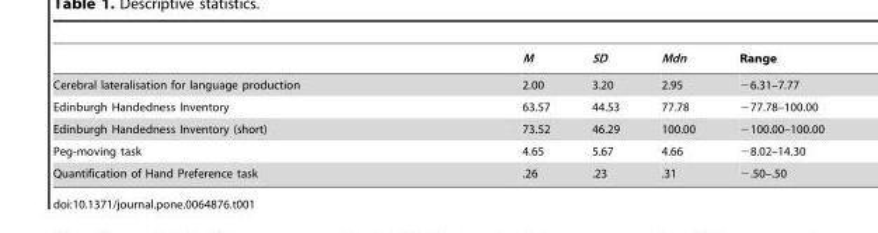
<table><thead><tr><td></td><td>M</td><td>SD</td><td>Mdn</td><td>Range</td></tr></thead><tbody><tr><td>Cerebral lateralisation for language production</td><td>2.00</td><td>3.20</td><td>2.95</td><td>−6.31–7.77</td></tr><tr><td>Edinburgh Handedness Inventory</td><td>63.57</td><td>44.53</td><td>77.78</td><td>−77.78–100.00</td></tr><tr><td>Edinburgh Handedness Inventory (short)</td><td>73.52</td><td>46.29</td><td>100.00</td><td>−100.00–100.00</td></tr><tr><td>Peg-moving task</td><td>4.65</td><td>5.67</td><td>4.66</td><td>−8.02–14.30</td></tr><tr><td>Quantification of Hand Preference task</td><td>.26</td><td>.23</td><td>.31</td><td>−.50–.50</td></tr></tbody></table>